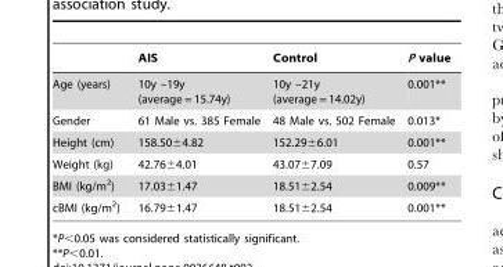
<table><thead><tr><td></td><td>AIS</td><td>Control</td><td>P value</td></tr></thead><tbody><tr><td>Age (years)</td><td>10y –19y (average = 15.74y)</td><td>10y –21y (average = 14.02y)</td><td>0.001**</td></tr><tr><td>Gender</td><td>61 Male vs. 385 Female</td><td>48 Male vs. 502 Female</td><td>0.013*</td></tr><tr><td>Height (cm)</td><td>158.50±4.82</td><td>152.29±6.01</td><td>0.001**</td></tr><tr><td>Weight (kg)</td><td>42.76±4.01</td><td>43.07±7.09</td><td>0.57</td></tr><tr><td>BMI (kg/m<sup>2</sup>)</td><td>17.03±1.47</td><td>18.51±2.54</td><td>0.009**</td></tr><tr><td>cBMI (kg/m<sup>2</sup>)</td><td>16.79±1.47</td><td>18.51±2.54</td><td>0.001**</td></tr></tbody></table>